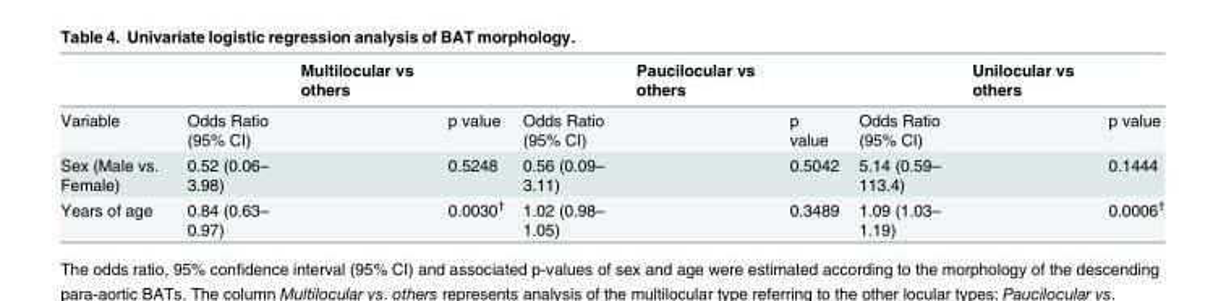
<table><thead><tr><td></td><td></td><td>Multilocular vs others</td><td></td><td></td><td>Paucilocular vs others</td><td></td><td></td><td>Unilocular vs others</td><td></td></tr></thead><tbody><tr><td>Variable</td><td>Odds Ratio (95% CI)</td><td></td><td>p value</td><td>Odds Ratio (95% CI)</td><td></td><td>p value</td><td>Odds Ratio (95% CI)</td><td></td><td>p value</td></tr><tr><td>Sex (Male vs. Female)</td><td>0.52 (0.06– 3.98)</td><td></td><td>0.5248</td><td>0.56 (0.09– 3.11)</td><td></td><td>0.5042</td><td>5.14 (0.59– 113.4)</td><td></td><td>0.1444</td></tr><tr><td>Years of age</td><td>0.84 (0.63– 0.97)</td><td></td><td>0.0030<sup>†</sup></td><td>1.02 (0.98– 1.05)</td><td></td><td>0.3489</td><td>1.09 (1.03– 1.19)</td><td></td><td>0.0006<sup>†</sup></td></tr></tbody></table>